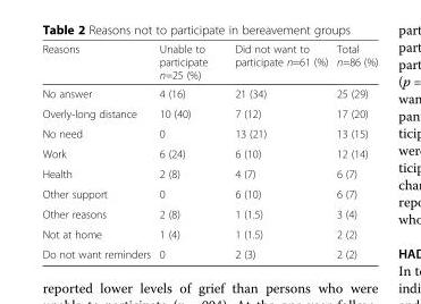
<table><thead><tr><td>Reasons</td><td>Unable to participate n=25 (%)</td><td>Did not want to participate n=61 (%)</td><td>Total n=86 (%)</td></tr></thead><tbody><tr><td>No answer</td><td>4 (16)</td><td>21 (34)</td><td>25 (29)</td></tr><tr><td>Overly-long distance</td><td>10 (40)</td><td>7 (12)</td><td>17 (20)</td></tr><tr><td>No need</td><td>0</td><td>13 (21)</td><td>13 (15)</td></tr><tr><td>Work</td><td>6 (24)</td><td>6 (10)</td><td>12 (14)</td></tr><tr><td>Health</td><td>2 (8)</td><td>4 (7)</td><td>6 (7)</td></tr><tr><td>Other support</td><td>0</td><td>6 (10)</td><td>6 (7)</td></tr><tr><td>Other reasons</td><td>2 (8)</td><td>1 (1.5)</td><td>3 (4)</td></tr><tr><td>Not at home</td><td>1 (4)</td><td>1 (1.5)</td><td>2 (2)</td></tr><tr><td>Do not want reminders</td><td>0</td><td>2 (3)</td><td>2 (2)</td></tr></tbody></table>